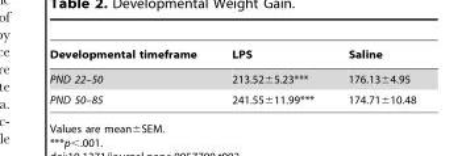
<table><thead><tr><td>Developmental timeframe</td><td>LPS</td><td>Saline</td></tr></thead><tbody><tr><td>PND 22–50</td><td>213.52±5.23***</td><td>176.13±4.95</td></tr><tr><td>PND 50–85</td><td>241.55±11.99***</td><td>174.71±10.48</td></tr></tbody></table>